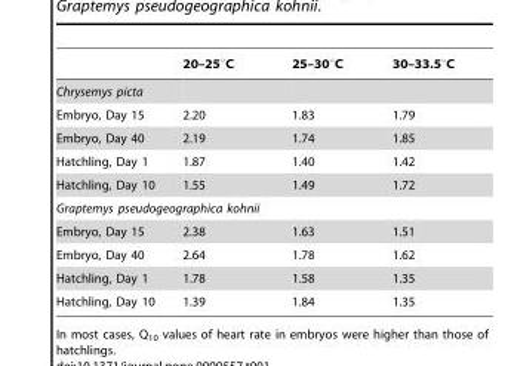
<table><thead><tr><td></td><td>20–25°C</td><td>25–30°C</td><td>30–33.5°C</td></tr></thead><tbody><tr><td colspan="4">Chrysemys picta</td></tr><tr><td>Embryo, Day 15</td><td>2.20</td><td>1.83</td><td>1.79</td></tr><tr><td>Embryo, Day 40</td><td>2.19</td><td>1.74</td><td>1.85</td></tr><tr><td>Hatchling, Day 1</td><td>1.87</td><td>1.40</td><td>1.42</td></tr><tr><td>Hatchling, Day 10</td><td>1.55</td><td>1.49</td><td>1.72</td></tr><tr><td colspan="4">Graptemys pseudogeographica kohnii</td></tr><tr><td>Embryo, Day 15</td><td>2.38</td><td>1.63</td><td>1.51</td></tr><tr><td>Embryo, Day 40</td><td>2.64</td><td>1.78</td><td>1.62</td></tr><tr><td>Hatchling, Day 1</td><td>1.78</td><td>1.58</td><td>1.35</td></tr><tr><td>Hatchling, Day 10</td><td>1.39</td><td>1.84</td><td>1.35</td></tr></tbody></table>